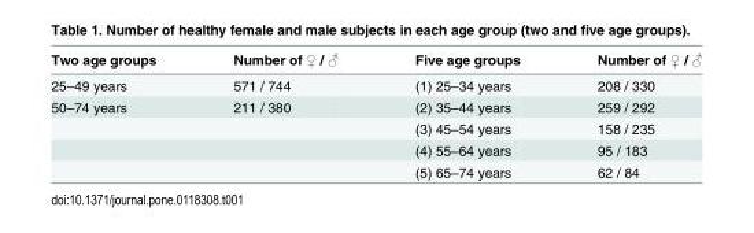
<table><thead><tr><td>Two age groups</td><td>Number of ♀ / ♂</td><td>Five age groups</td><td>Number of ♀ / ♂</td></tr></thead><tbody><tr><td>25–49 years</td><td>571 / 744</td><td>(1) 25–34 years</td><td>208 / 330</td></tr><tr><td rowspan="4">50–74 years</td><td>211 / 380</td><td>(2) 35–44 years</td><td>259 / 292</td></tr><tr><td></td><td>(3) 45–54 years</td><td>158 / 235</td></tr><tr><td></td><td>(4) 55–64 years</td><td>95 / 183</td></tr><tr><td></td><td>(5) 65–74 years</td><td>62 / 84</td></tr></tbody></table>